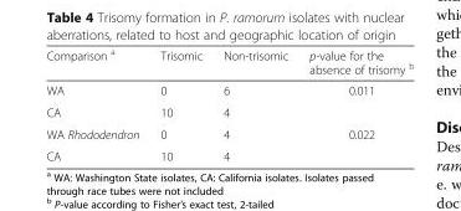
<table><thead><tr><td>Comparison <sup>a</sup></td><td>Trisomic</td><td>Non-trisomic</td><td>p-value for the absence of trisomy <sup>b</sup></td></tr></thead><tbody><tr><td>WA</td><td>0</td><td>6</td><td>0.011</td></tr><tr><td>CA</td><td>10</td><td>4</td><td></td></tr><tr><td>WA Rhododendron</td><td>0</td><td>4</td><td>0.022</td></tr><tr><td>CA</td><td>10</td><td>4</td><td></td></tr></tbody></table>